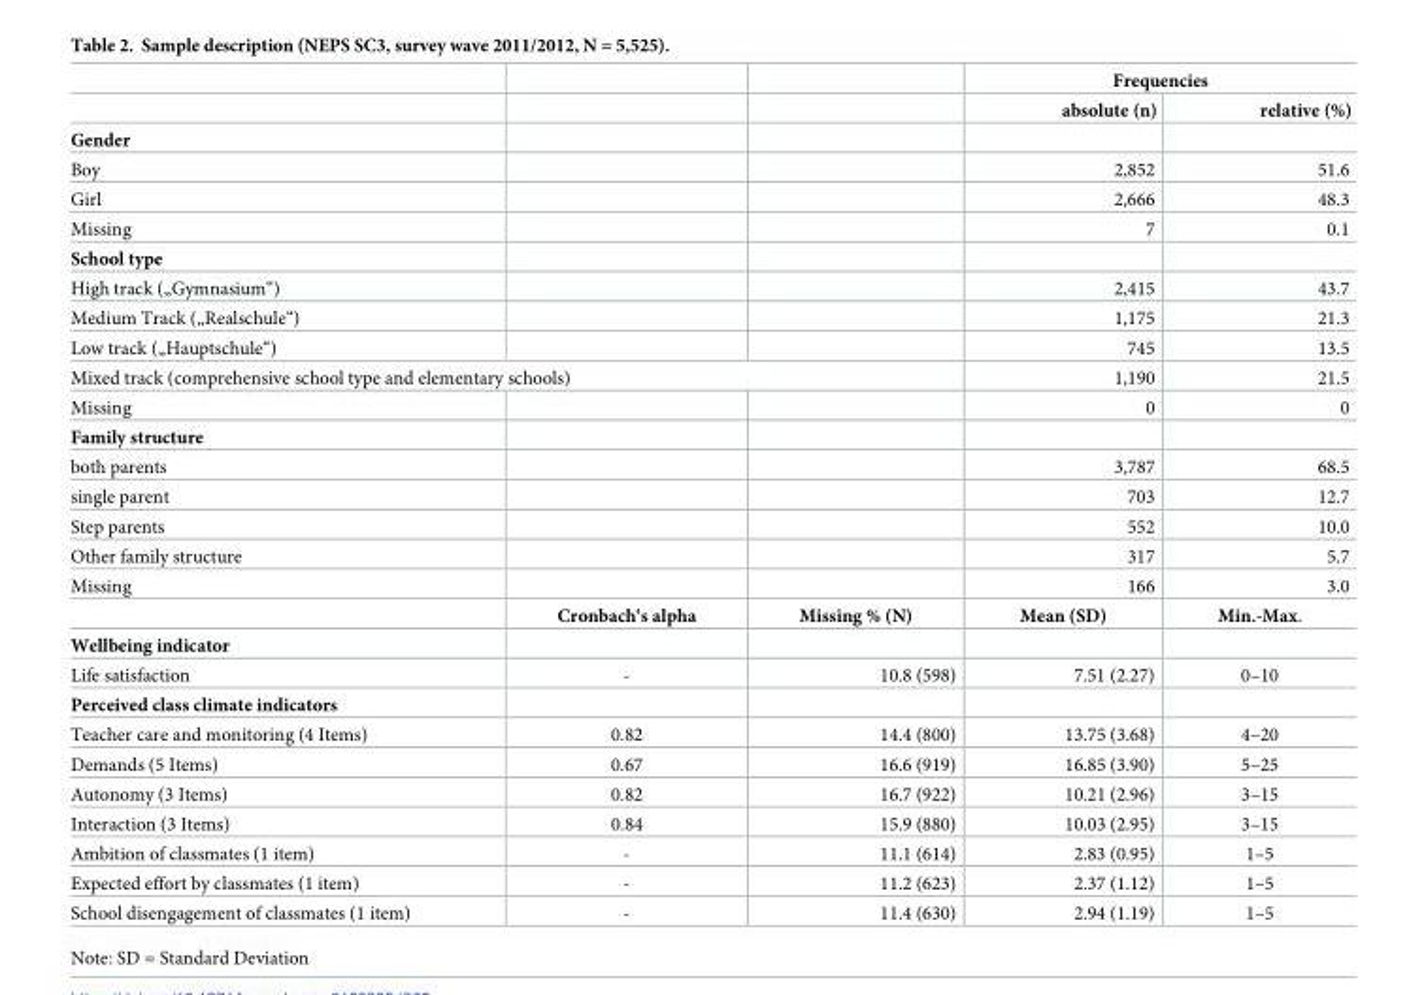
<table><thead><tr><td rowspan="2"></td><td rowspan="2"></td><td rowspan="2"></td><td colspan="2">Frequencies</td></tr><tr><td>absolute (n)</td><td>relative (%)</td></tr></thead><tbody><tr><td colspan="5">Gender</td></tr><tr><td>Boy</td><td></td><td></td><td>2,852</td><td>51.6</td></tr><tr><td>Girl</td><td></td><td></td><td>2,666</td><td>48.3</td></tr><tr><td>Missing</td><td></td><td></td><td>7</td><td>0.1</td></tr><tr><td colspan="5">School type</td></tr><tr><td>High track („Gymnasium“)</td><td></td><td></td><td>2,415</td><td>43.7</td></tr><tr><td>Medium Track („Realschule“)</td><td></td><td></td><td>1,175</td><td>21.3</td></tr><tr><td>Low track („Hauptschule“)</td><td></td><td></td><td>745</td><td>13.5</td></tr><tr><td colspan="3">Mixed track (comprehensive school type and elementary schools)</td><td>1,190</td><td>21.5</td></tr><tr><td>Missing</td><td></td><td></td><td>0</td><td>0</td></tr><tr><td colspan="5">Family structure</td></tr><tr><td>both parents</td><td></td><td></td><td>3,787</td><td>68.5</td></tr><tr><td>single parent</td><td></td><td></td><td>703</td><td>12.7</td></tr><tr><td>Step parents</td><td></td><td></td><td>552</td><td>10.0</td></tr><tr><td>Other family structure</td><td></td><td></td><td>317</td><td>5.7</td></tr><tr><td rowspan="2">Missing</td><td></td><td></td><td>166</td><td>3.0</td></tr><tr><td>Cronbach‘s alpha</td><td>Missing % (N)</td><td>Mean (SD)</td><td>Min.-Max.</td></tr><tr><td colspan="5">Wellbeing indicator</td></tr><tr><td>Life satisfaction</td><td>-</td><td>10.8 (598)</td><td>7.51 (2.27)</td><td>0–10</td></tr><tr><td colspan="5">Perceived class climate indicators</td></tr><tr><td>Teacher care and monitoring (4 Items)</td><td>0.82</td><td>14.4 (800)</td><td>13.75 (3.68)</td><td>4–20</td></tr><tr><td>Demands (5 Items)</td><td>0.67</td><td>16.6 (919)</td><td>16.85 (3.90)</td><td>5–25</td></tr><tr><td>Autonomy (3 Items)</td><td>0.82</td><td>16.7 (922)</td><td>10.21 (2.96)</td><td>3–15</td></tr><tr><td>Interaction (3 Items)</td><td>0.84</td><td>15.9 (880)</td><td>10.03 (2.95)</td><td>3–15</td></tr><tr><td>Ambition of classmates (1 item)</td><td>-</td><td>11.1 (614)</td><td>2.83 (0.95)</td><td>1–5</td></tr><tr><td>Expected effort by classmates (1 item)</td><td>-</td><td>11.2 (623)</td><td>2.37 (1.12)</td><td>1–5</td></tr><tr><td>School disengagement of classmates (1 item)</td><td>-</td><td>11.4 (630)</td><td>2.94 (1.19)</td><td>1–5</td></tr></tbody></table>